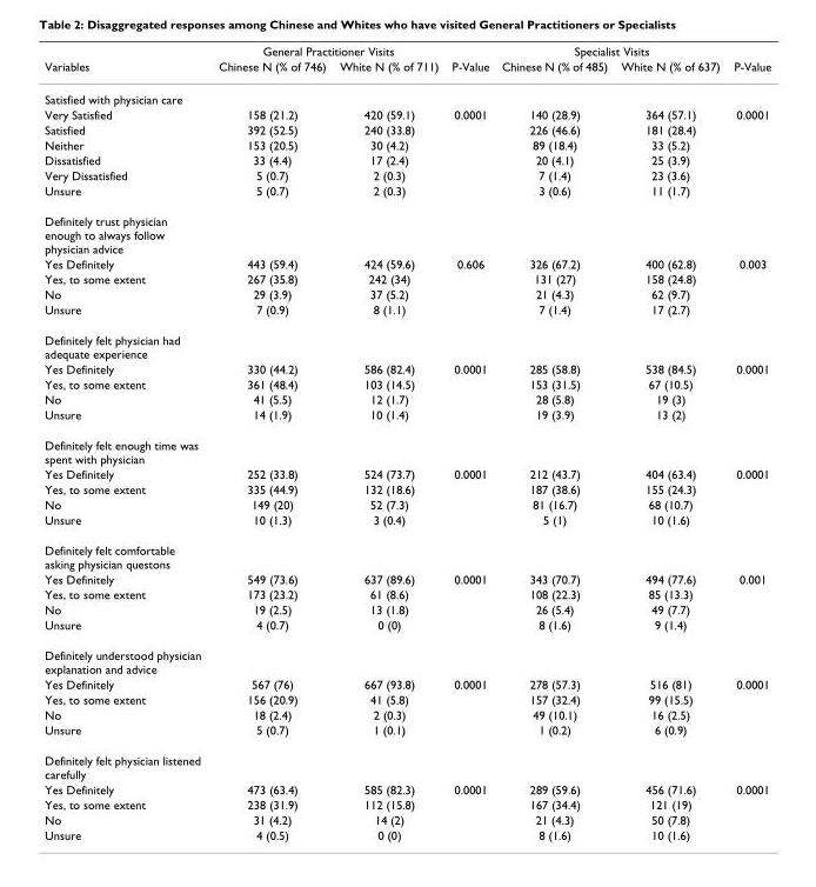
<table><thead><tr><td rowspan="2">Variables</td><td colspan="2">General Practitioner Visits</td><td rowspan="2">P-Value</td><td colspan="2">Specialist Visits</td><td rowspan="2">P-Value</td></tr><tr><td>Chinese N (% of 746)</td><td>White N (% of 711)</td><td>Chinese N (% of 485)</td><td>White N (% of 637)</td></tr></thead><tbody><tr><td colspan="7">Satisfied with physician care</td></tr><tr><td>Very Satisfied</td><td>158 (21.2)</td><td>420 (59.1)</td><td>0.0001</td><td>140 (28.9)</td><td>364 (57.1)</td><td>0.0001</td></tr><tr><td>Satisfied</td><td>392 (52.5)</td><td>240 (33.8)</td><td></td><td>226 (46.6)</td><td>181 (28.4)</td><td></td></tr><tr><td>Neither</td><td>153 (20.5)</td><td>30 (4.2)</td><td></td><td>89 (18.4)</td><td>33 (5.2)</td><td></td></tr><tr><td>Dissatisfied</td><td>33 (4.4)</td><td>17 (2.4)</td><td></td><td>20 (4.1)</td><td>25 (3.9)</td><td></td></tr><tr><td>Very Dissatisfied</td><td>5 (0.7)</td><td>2 (0.3)</td><td></td><td>7 (1.4)</td><td>23 (3.6)</td><td></td></tr><tr><td>Unsure</td><td>5 (0.7)</td><td>2 (0.3)</td><td></td><td>3 (0.6)</td><td>11 (1.7)</td><td></td></tr><tr><td colspan="7">Definitely trust physician enough to always follow physician advice</td></tr><tr><td>Yes Definitely</td><td>443 (59.4)</td><td>424 (59.6)</td><td>0.606</td><td>326 (67.2)</td><td>400 (62.8)</td><td>0.003</td></tr><tr><td>Yes, to some extent</td><td>267 (35.8)</td><td>242 (34)</td><td></td><td>131 (27)</td><td>158 (24.8)</td><td></td></tr><tr><td>No</td><td>29 (3.9)</td><td>37 (5.2)</td><td></td><td>21 (4.3)</td><td>62 (9.7)</td><td></td></tr><tr><td>Unsure</td><td>7 (0.9)</td><td>8 (1.1)</td><td></td><td>7 (1.4)</td><td>17 (2.7)</td><td></td></tr><tr><td colspan="7">Definitely felt physician had adequate experience</td></tr><tr><td>Yes Definitely</td><td>330 (44.2)</td><td>586 (82.4)</td><td>0.0001</td><td>285 (58.8)</td><td>538 (84.5)</td><td>0.0001</td></tr><tr><td>Yes, to some extent</td><td>361 (48.4)</td><td>103 (14.5)</td><td></td><td>153 (31.5)</td><td>67 (10.5)</td><td></td></tr><tr><td>No</td><td>41 (5.5)</td><td>12 (1.7)</td><td></td><td>28 (5.8)</td><td>19 (3)</td><td></td></tr><tr><td>Unsure</td><td>14 (1.9)</td><td>10 (1.4)</td><td></td><td>19 (3.9)</td><td>13 (2)</td><td></td></tr><tr><td colspan="7">Definitely felt enough time was spent with physician</td></tr><tr><td>Yes Definitely</td><td>252 (33.8)</td><td>524 (73.7)</td><td>0.0001</td><td>212 (43.7)</td><td>404 (63.4)</td><td>0.0001</td></tr><tr><td>Yes, to some extent</td><td>335 (44.9)</td><td>132 (18.6)</td><td></td><td>187 (38.6)</td><td>155 (24.3)</td><td></td></tr><tr><td>No</td><td>149 (20)</td><td>52 (7.3)</td><td></td><td>81 (16.7)</td><td>68 (10.7)</td><td></td></tr><tr><td>Unsure</td><td>10 (1.3)</td><td>3 (0.4)</td><td></td><td>5 (1)</td><td>10 (1.6)</td><td></td></tr><tr><td colspan="7">Definitely felt comfortable asking physician questons</td></tr><tr><td>Yes Definitely</td><td>549 (73.6)</td><td>637 (89.6)</td><td>0.0001</td><td>343 (70.7)</td><td>494 (77.6)</td><td>0.001</td></tr><tr><td>Yes, to some extent</td><td>173 (23.2)</td><td>61 (8.6)</td><td></td><td>108 (22.3)</td><td>85 (13.3)</td><td></td></tr><tr><td>No</td><td>19 (2.5)</td><td>13 (1.8)</td><td></td><td>26 (5.4)</td><td>49 (7.7)</td><td></td></tr><tr><td>Unsure</td><td>4 (0.7)</td><td>0 (0)</td><td></td><td>8 (1.6)</td><td>9 (1.4)</td><td></td></tr><tr><td colspan="7">Definitely understood physician explanation and advice</td></tr><tr><td>Yes Definitely</td><td>567 (76)</td><td>667 (93.8)</td><td>0.0001</td><td>278 (57.3)</td><td>516 (81)</td><td>0.0001</td></tr><tr><td>Yes, to some extent</td><td>156 (20.9)</td><td>41 (5.8)</td><td></td><td>157 (32.4)</td><td>99 (15.5)</td><td></td></tr><tr><td>No</td><td>18 (2.4)</td><td>2 (0.3)</td><td></td><td>49 (10.1)</td><td>16 (2.5)</td><td></td></tr><tr><td>Unsure</td><td>5 (0.7)</td><td>1 (0.1)</td><td></td><td>1 (0.2)</td><td>6 (0.9)</td><td></td></tr><tr><td colspan="7">Definitely felt physician listened carefully</td></tr><tr><td>Yes Definitely</td><td>473 (63.4)</td><td>585 (82.3)</td><td>0.0001</td><td>289 (59.6)</td><td>456 (71.6)</td><td>0.0001</td></tr><tr><td>Yes, to some extent</td><td>238 (31.9)</td><td>112 (15.8)</td><td></td><td>167 (34.4)</td><td>121 (19)</td><td></td></tr><tr><td>No</td><td>31 (4.2)</td><td>14 (2)</td><td></td><td>21 (4.3)</td><td>50 (7.8)</td><td></td></tr><tr><td>Unsure</td><td>4 (0.5)</td><td>0 (0)</td><td></td><td>8 (1.6)</td><td>10 (1.6)</td><td></td></tr></tbody></table>